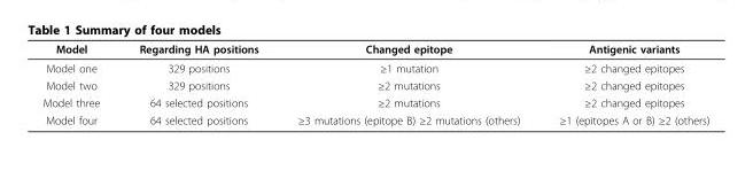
<table><thead><tr><td>Model</td><td>Regarding HA positions</td><td>Changed epitope</td><td>Antigenic variants</td></tr></thead><tbody><tr><td>Model one</td><td>329 positions</td><td>≥1 mutation</td><td>≥2 changed epitopes</td></tr><tr><td>Model two</td><td>329 positions</td><td>≥2 mutations</td><td>≥2 changed epitopes</td></tr><tr><td>Model three</td><td>64 selected positions</td><td>≥2 mutations</td><td>≥2 changed epitopes</td></tr><tr><td>Model four</td><td>64 selected positions</td><td>≥3 mutations (epitope B) ≥2 mutations (others)</td><td>≥1 (epitopes A or B) ≥2 (others)</td></tr></tbody></table>